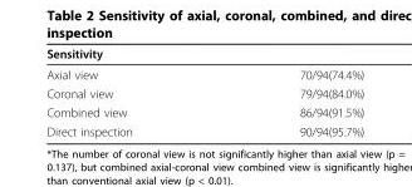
<table><thead><tr><td>Sensitivity</td><td></td></tr></thead><tbody><tr><td>Axial view</td><td>70/94(74.4%)</td></tr><tr><td>Coronal view</td><td>79/94(84.0%)</td></tr><tr><td>Combined view</td><td>86/94(91.5%)</td></tr><tr><td>Direct inspection</td><td>90/94(95.7%)</td></tr></tbody></table>